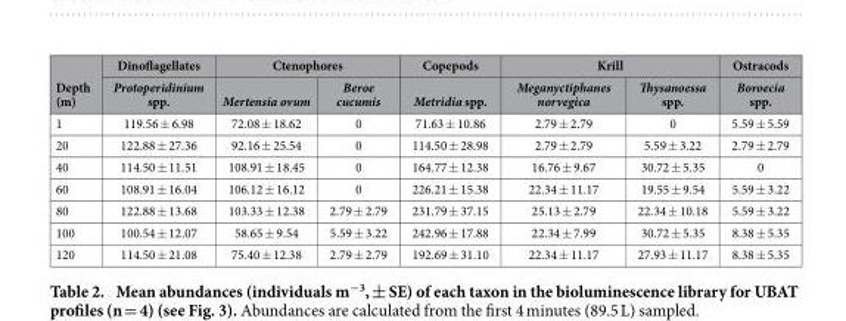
<table><thead><tr><td rowspan="2">Depth (m)</td><td rowspan="2">Dinoflagellates Protoperidinium spp.</td><td colspan="2">Ctenophores</td><td rowspan="2">Copepods Metridia spp.</td><td colspan="2">Krill</td><td rowspan="2">Ostracods Boroecia spp.</td></tr><tr><td>Mertensia ovum</td><td>Beroe cucumis</td><td>Meganyctiphanes norvegica</td><td>Thysanoessa spp.</td></tr></thead><tbody><tr><td>1</td><td>119.56 ± 6.98</td><td>72.08 ± 18.62</td><td>0</td><td>71.63 ± 10.86</td><td>2.79 ± 2.79</td><td>0</td><td>5.59 ± 5.59</td></tr><tr><td>20</td><td>122.88 ± 27.36</td><td>92.16 ± 25.54</td><td>0</td><td>114.50 ± 28.98</td><td>2.79 ± 2.79</td><td>5.59 ± 3.22</td><td>2.79 ± 2.79</td></tr><tr><td>40</td><td>114.50 ± 11.51</td><td>108.91 ± 18.45</td><td>0</td><td>164.77 ± 12.38</td><td>16.76 ± 9.67</td><td>30.72 ± 5.35</td><td>0</td></tr><tr><td>60</td><td>108.91 ± 16.04</td><td>106.12 ± 16.12</td><td>0</td><td>226.21 ± 15.38</td><td>22.34 ± 11.17</td><td>19.55 ± 9.54</td><td>5.59 ± 3.22</td></tr><tr><td>80</td><td>122.88 ± 13.68</td><td>103.33 ± 12.38</td><td>2.79 ± 2.79</td><td>231.79 ± 37.15</td><td>25.13 ± 2.79</td><td>22.34 ± 10.18</td><td>5.59 ± 3.22</td></tr><tr><td>100</td><td>100.54 ± 12.07</td><td>58.65 ± 9.54</td><td>5.59 ± 3.22</td><td>242.96 ± 17.88</td><td>22.34 ± 7.99</td><td>30.72 ± 5.35</td><td>8.38 ± 5.35</td></tr><tr><td>120</td><td>114.50 ± 21.08</td><td>75.40 ± 12.38</td><td>2.79 ± 2.79</td><td>192.69 ± 31.10</td><td>22.34 ± 11.17</td><td>27.93 ± 11.17</td><td>8.38 ± 5.35</td></tr></tbody></table>